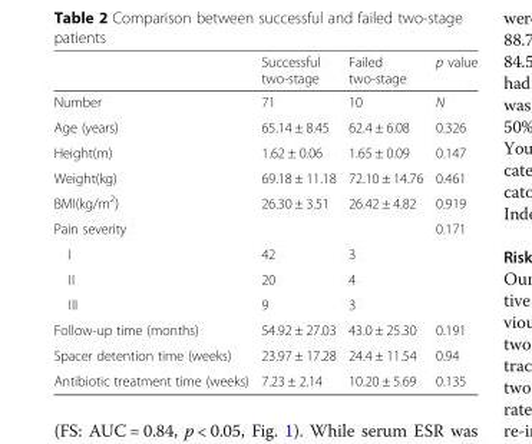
<table><thead><tr><td></td><td>Successful two-stage</td><td>Failed two-stage</td><td>p value</td></tr></thead><tbody><tr><td>Number</td><td>71</td><td>10</td><td>N</td></tr><tr><td>Age (years)</td><td>65.14 ± 8.45</td><td>62.4 ± 6.08</td><td>0.326</td></tr><tr><td>Height(m)</td><td>1.62 ± 0.06</td><td>1.65 ± 0.09</td><td>0.147</td></tr><tr><td>Weight(kg)</td><td>69.18 ± 11.18</td><td>72.10 ± 14.76</td><td>0.461</td></tr><tr><td>BMI(kg/m<sup>2</sup>)</td><td>26.30 ± 3.51</td><td>26.42 ± 4.82</td><td>0.919</td></tr><tr><td>Pain severity</td><td></td><td></td><td>0.171</td></tr><tr><td>I</td><td>42</td><td>3</td><td></td></tr><tr><td>II</td><td>20</td><td>4</td><td></td></tr><tr><td>III</td><td>9</td><td>3</td><td></td></tr><tr><td>Follow-up time (months)</td><td>54.92 ± 27.03</td><td>43.0 ± 25.30</td><td>0.191</td></tr><tr><td>Spacer detention time (weeks)</td><td>23.97 ± 17.28</td><td>24.4 ± 11.54</td><td>0.94</td></tr><tr><td>Antibiotic treatment time (weeks)</td><td>7.23 ± 2.14</td><td>10.20 ± 5.69</td><td>0.135</td></tr></tbody></table>